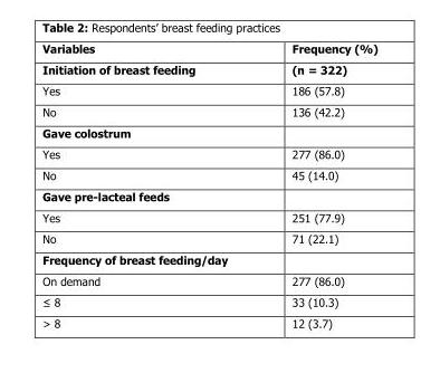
<table><thead><tr><td>Variables</td><td>Frequency (%)</td></tr></thead><tbody><tr><td>Initiation of breast feeding</td><td>(n = 322)</td></tr><tr><td>Yes</td><td>186 (57.8)</td></tr><tr><td>No</td><td>136 (42.2)</td></tr><tr><td colspan="2">Gave colostrum</td></tr><tr><td>Yes</td><td>277 (86.0)</td></tr><tr><td>No</td><td>45 (14.0)</td></tr><tr><td colspan="2">Gave pre-lacteal feeds</td></tr><tr><td>Yes</td><td>251 (77.9)</td></tr><tr><td>No</td><td>71 (22.1)</td></tr><tr><td colspan="2">Frequency of breast feeding/day</td></tr><tr><td>On demand</td><td>277 (86.0)</td></tr><tr><td>≤ 8</td><td>33 (10.3)</td></tr><tr><td>&gt; 8</td><td>12 (3.7)</td></tr></tbody></table>